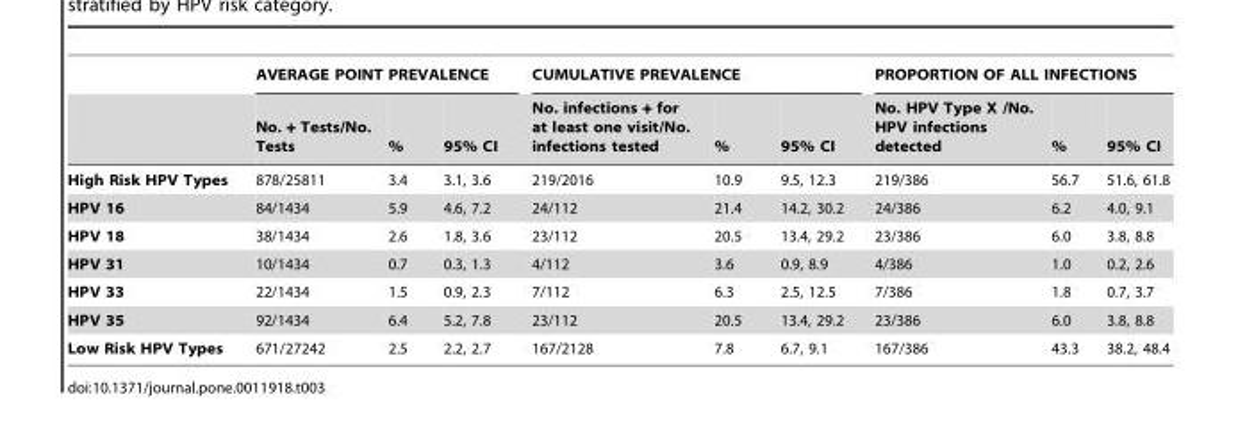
<table><thead><tr><td rowspan="2"></td><td colspan="3">AVERAGE POINT PREVALENCE</td><td colspan="3">CUMULATIVE PREVALENCE</td><td colspan="3">PROPORTION OF ALL INFECTIONS</td></tr><tr><td>No. + Tests/No. Tests</td><td>%</td><td>95% CI</td><td>No. infections + for at least one visit/No. infections tested</td><td>%</td><td>95% CI</td><td>No. HPV Type X /No. HPV infections detected</td><td>%</td><td>95% CI</td></tr></thead><tbody><tr><td>High Risk HPV Types</td><td>878/25811</td><td>3.4</td><td>3.1, 3.6</td><td>219/2016</td><td>10.9</td><td>9.5, 12.3</td><td>219/386</td><td>56.7</td><td>51.6, 61.8</td></tr><tr><td>HPV 16</td><td>84/1434</td><td>5.9</td><td>4.6, 7.2</td><td>24/112</td><td>21.4</td><td>14.2, 30.2</td><td>24/386</td><td>6.2</td><td>4.0, 9.1</td></tr><tr><td>HPV 18</td><td>38/1434</td><td>2.6</td><td>1.8, 3.6</td><td>23/112</td><td>20.5</td><td>13.4, 29.2</td><td>23/386</td><td>6.0</td><td>3.8, 8.8</td></tr><tr><td>HPV 31</td><td>10/1434</td><td>0.7</td><td>0.3, 1.3</td><td>4/112</td><td>3.6</td><td>0.9, 8.9</td><td>4/386</td><td>1.0</td><td>0.2, 2.6</td></tr><tr><td>HPV 33</td><td>22/1434</td><td>1.5</td><td>0.9, 2.3</td><td>7/112</td><td>6.3</td><td>2.5, 12.5</td><td>7/386</td><td>1.8</td><td>0.7, 3.7</td></tr><tr><td>HPV 35</td><td>92/1434</td><td>6.4</td><td>5.2, 7.8</td><td>23/112</td><td>20.5</td><td>13.4, 29.2</td><td>23/386</td><td>6.0</td><td>3.8, 8.8</td></tr><tr><td>Low Risk HPV Types</td><td>671/27242</td><td>2.5</td><td>2.2, 2.7</td><td>167/2128</td><td>7.8</td><td>6.7, 9.1</td><td>167/386</td><td>43.3</td><td>38.2, 48.4</td></tr></tbody></table>